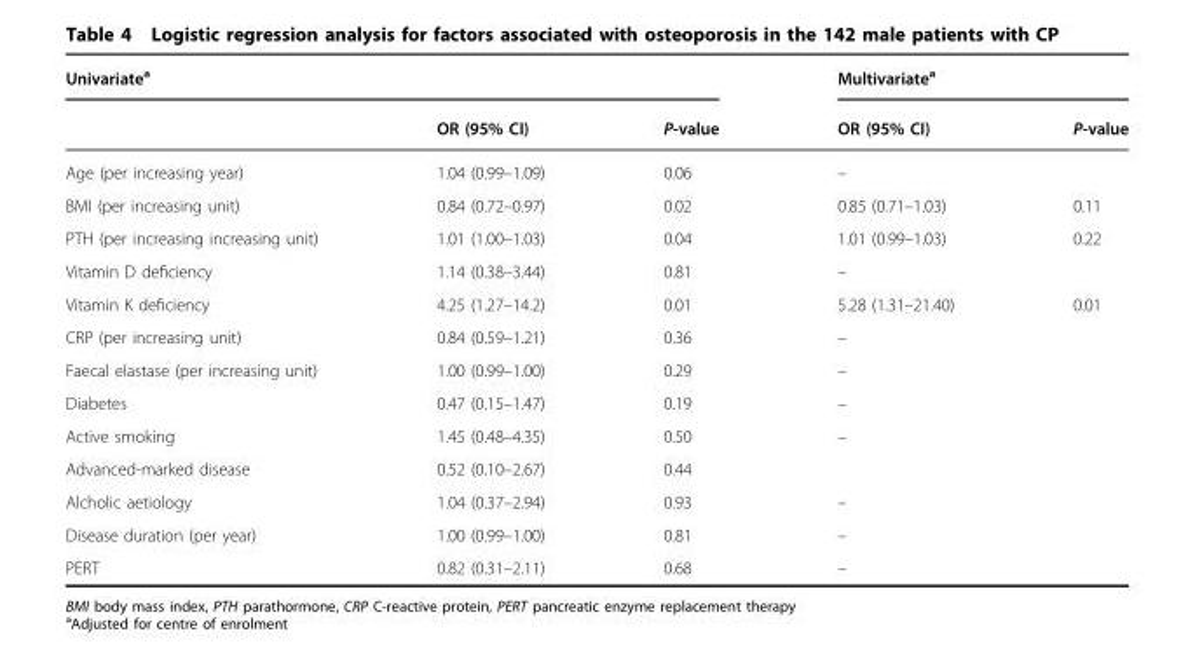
<table><thead><tr><td colspan="3">Univariate<sup>a</sup></td><td colspan="2">Multivariate<sup>a</sup></td></tr><tr><td></td><td>OR (95% CI)</td><td>P-value</td><td>OR (95% CI)</td><td>P-value</td></tr></thead><tbody><tr><td>Age (per increasing year)</td><td>1.04 (0.99–1.09)</td><td>0.06</td><td>–</td><td></td></tr><tr><td>BMI (per increasing unit)</td><td>0.84 (0.72–0.97)</td><td>0.02</td><td>0.85 (0.71–1.03)</td><td>0.11</td></tr><tr><td>PTH (per increasing increasing unit)</td><td>1.01 (1.00–1.03)</td><td>0.04</td><td>1.01 (0.99–1.03)</td><td>0.22</td></tr><tr><td>Vitamin D deficiency</td><td>1.14 (0.38–3.44)</td><td>0.81</td><td>–</td><td></td></tr><tr><td>Vitamin K deficiency</td><td>4.25 (1.27–14.2)</td><td>0.01</td><td>5.28 (1.31–21.40)</td><td>0.01</td></tr><tr><td>CRP (per increasing unit)</td><td>0.84 (0.59–1.21)</td><td>0.36</td><td>–</td><td></td></tr><tr><td>Faecal elastase (per increasing unit)</td><td>1.00 (0.99–1.00)</td><td>0.29</td><td>–</td><td></td></tr><tr><td>Diabetes</td><td>0.47 (0.15–1.47)</td><td>0.19</td><td>–</td><td></td></tr><tr><td>Active smoking</td><td>1.45 (0.48–4.35)</td><td>0.50</td><td>–</td><td></td></tr><tr><td>Advanced-marked disease</td><td>0.52 (0.10–2.67)</td><td>0.44</td><td></td><td></td></tr><tr><td>Alcholic aetiology</td><td>1.04 (0.37–2.94)</td><td>0.93</td><td>–</td><td></td></tr><tr><td>Disease duration (per year)</td><td>1.00 (0.99–1.00)</td><td>0.81</td><td>–</td><td></td></tr><tr><td>PERT</td><td>0.82 (0.31–2.11)</td><td>0.68</td><td>–</td><td></td></tr></tbody></table>